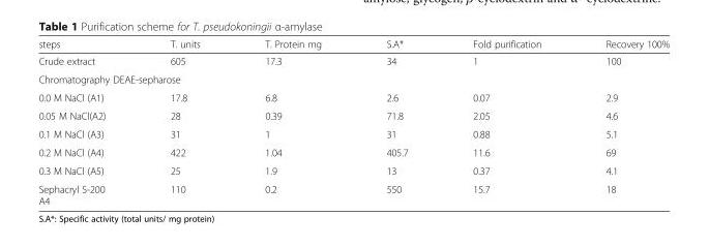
<table><thead><tr><td>steps</td><td>T. units</td><td>T. Protein mg</td><td>S.A*</td><td>Fold purification</td><td>Recovery 100%</td></tr></thead><tbody><tr><td>Crude extract</td><td>605</td><td>17.3</td><td>34</td><td>1</td><td>100</td></tr><tr><td colspan="6">Chromatography DEAE-sepharose</td></tr><tr><td>0.0 M NaCl (A1)</td><td>17.8</td><td>6.8</td><td>2.6</td><td>0.07</td><td>2.9</td></tr><tr><td>0.05 M NaCl(A2)</td><td>28</td><td>0.39</td><td>71.8</td><td>2.05</td><td>4.6</td></tr><tr><td>0.1 M NaCl (A3)</td><td>31</td><td>1</td><td>31</td><td>0.88</td><td>5.1</td></tr><tr><td>0.2 M NaCl (A4)</td><td>422</td><td>1.04</td><td>405.7</td><td>11.6</td><td>69</td></tr><tr><td>0.3 M NaCl (A5)</td><td>25</td><td>1.9</td><td>13</td><td>0.37</td><td>4.1</td></tr><tr><td>Sephacryl S-200 A4</td><td>110</td><td>0.2</td><td>550</td><td>15.7</td><td>18</td></tr></tbody></table>